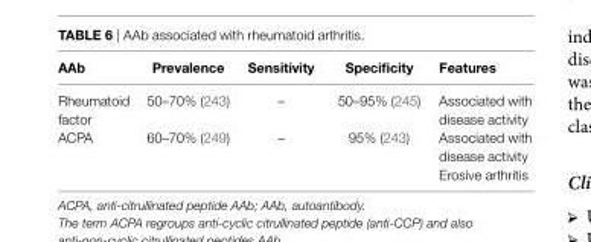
<table><thead><tr><td>AAb</td><td>Prevalence</td><td>Sensitivity</td><td>Specificity</td><td>Features</td></tr></thead><tbody><tr><td>Rheumatoid factor</td><td>50–70% (243)</td><td>–</td><td>50–95% (245)</td><td>Associated with disease activity</td></tr><tr><td>ACPA</td><td>60–70% (249)</td><td>–</td><td>95% (243)</td><td>Associated with disease activity Erosive arthritis</td></tr></tbody></table>